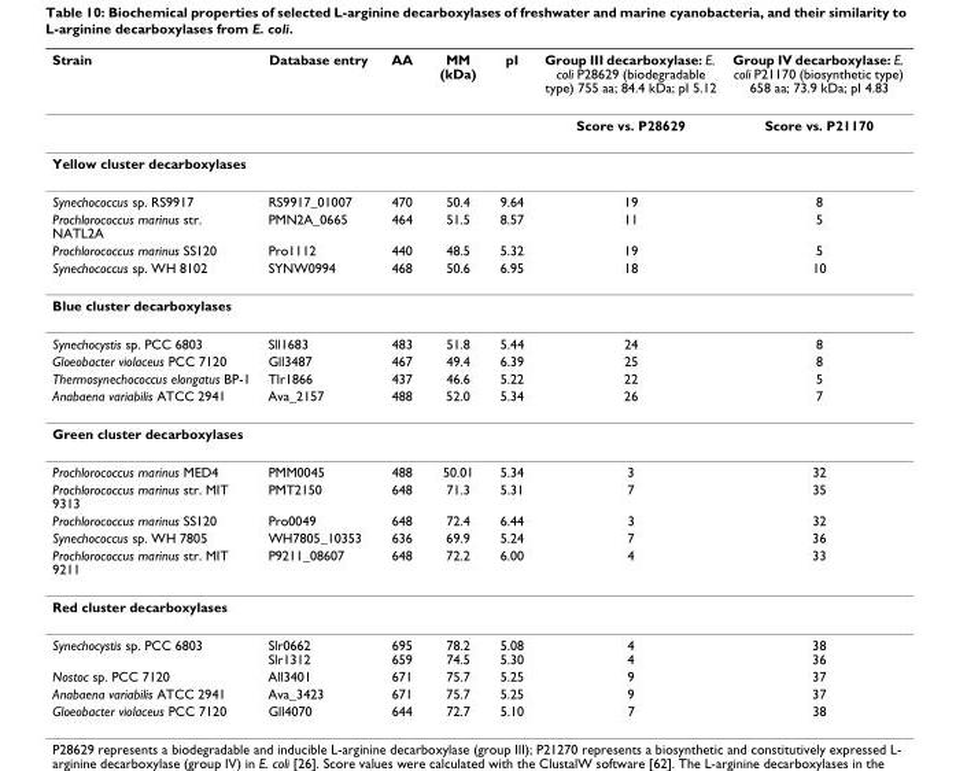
<table><thead><tr><td>Strain</td><td>Database entry</td><td>AA</td><td>MM (kDa)</td><td>pI</td><td>Group III decarboxylase: E. coli P28629 (biodegradable type) 755 aa; 84.4 kDa; pI 5.12</td><td>Group IV decarboxylase: E. coli P21170 (biosynthetic type) 658 aa; 73.9 kDa; pI 4.83</td></tr></thead><tbody><tr><td></td><td></td><td></td><td></td><td></td><td>Score vs. P28629</td><td>Score vs. P21170</td></tr><tr><td colspan="7">Yellow cluster decarboxylases</td></tr><tr><td>Synechococcus sp. RS9917</td><td>RS9917_01007</td><td>470</td><td>50.4</td><td>9.64</td><td>19</td><td>8</td></tr><tr><td>Prochlorococcus marinus str. NATL2A</td><td>PMN2A_0665</td><td>464</td><td>51.5</td><td>8.57</td><td>11</td><td>5</td></tr><tr><td>Prochlorococcus marinus SS120</td><td>Pro1112</td><td>440</td><td>48.5</td><td>5.32</td><td>19</td><td>5</td></tr><tr><td>Synechococcus sp. WH 8102</td><td>SYNW0994</td><td>468</td><td>50.6</td><td>6.95</td><td>18</td><td>10</td></tr><tr><td colspan="7">Blue cluster decarboxylases</td></tr><tr><td>Synechocystis sp. PCC 6803</td><td>Sll1683</td><td>483</td><td>51.8</td><td>5.44</td><td>24</td><td>8</td></tr><tr><td>Gloeobacter violaceus PCC 7120</td><td>Gll3487</td><td>467</td><td>49.4</td><td>6.39</td><td>25</td><td>8</td></tr><tr><td>Thermosynechococcus elongatus BP-1</td><td>Tlr1866</td><td>437</td><td>46.6</td><td>5.22</td><td>22</td><td>5</td></tr><tr><td>Anabaena variabilis ATCC 2941</td><td>Ava_2157</td><td>488</td><td>52.0</td><td>5.34</td><td>26</td><td>7</td></tr><tr><td colspan="7">Green cluster decarboxylases</td></tr><tr><td>Prochlorococcus marinus MED4</td><td>PMM0045</td><td>488</td><td>50.01</td><td>5.34</td><td>3</td><td>32</td></tr><tr><td>Prochlorococcus marinus str. MIT 9313</td><td>PMT2150</td><td>648</td><td>71.3</td><td>5.31</td><td>7</td><td>35</td></tr><tr><td>Prochlorococcus marinus SS120</td><td>Pro0049</td><td>648</td><td>72.4</td><td>6.44</td><td>3</td><td>32</td></tr><tr><td>Synechococcus sp. WH 7805</td><td>WH7805_10353</td><td>636</td><td>69.9</td><td>5.24</td><td>7</td><td>36</td></tr><tr><td>Prochlorococcus marinus str. MIT 9211</td><td>P9211_08607</td><td>648</td><td>72.2</td><td>6.00</td><td>4</td><td>33</td></tr><tr><td colspan="7">Red cluster decarboxylases</td></tr><tr><td>Synechocystis sp. PCC 6803</td><td>Slr0662 Slr1312</td><td>695 659</td><td>78.2 74.5</td><td>5.08 5.30</td><td>4 4</td><td>38 36</td></tr><tr><td>Nostoc sp. PCC 7120</td><td>All3401</td><td>671</td><td>75.7</td><td>5.25</td><td>9</td><td>37</td></tr><tr><td>Anabaena variabilis ATCC 2941</td><td>Ava_3423</td><td>671</td><td>75.7</td><td>5.25</td><td>9</td><td>37</td></tr><tr><td>Gloeobacter violaceus PCC 7120</td><td>Gll4070</td><td>644</td><td>72.7</td><td>5.10</td><td>7</td><td>38</td></tr></tbody></table>